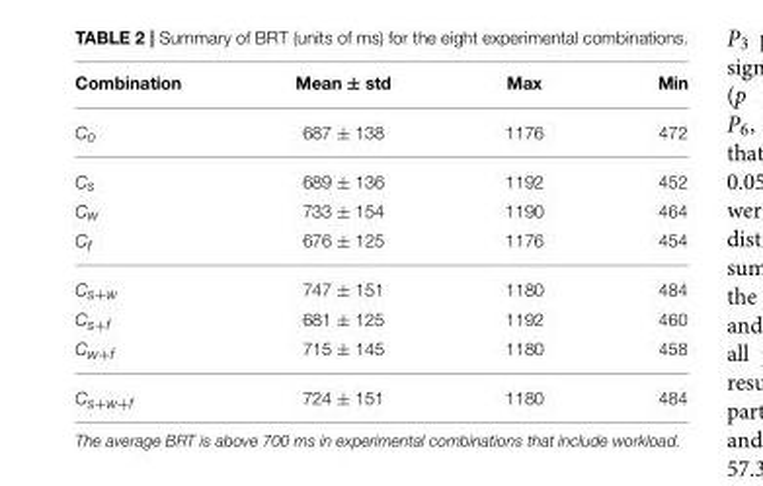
<table><thead><tr><td>Combination</td><td>Mean ± std</td><td>Max</td><td>Min</td></tr></thead><tbody><tr><td>C<sub>o</sub></td><td>687 ± 138</td><td>1176</td><td>472</td></tr><tr><td>C<sub>s</sub></td><td>689 ± 136</td><td>1192</td><td>452</td></tr><tr><td>C<sub>w</sub></td><td>733 ± 154</td><td>1190</td><td>464</td></tr><tr><td>C<sub>f</sub></td><td>676 ± 125</td><td>1176</td><td>454</td></tr><tr><td>C<sub>s+w</sub></td><td>747 ± 151</td><td>1180</td><td>484</td></tr><tr><td>C<sub>s+f</sub></td><td>681 ± 125</td><td>1192</td><td>460</td></tr><tr><td>C<sub>w+f</sub></td><td>715 ± 145</td><td>1180</td><td>458</td></tr><tr><td>C<sub>s+w+f</sub></td><td>724 ± 151</td><td>1180</td><td>484</td></tr></tbody></table>